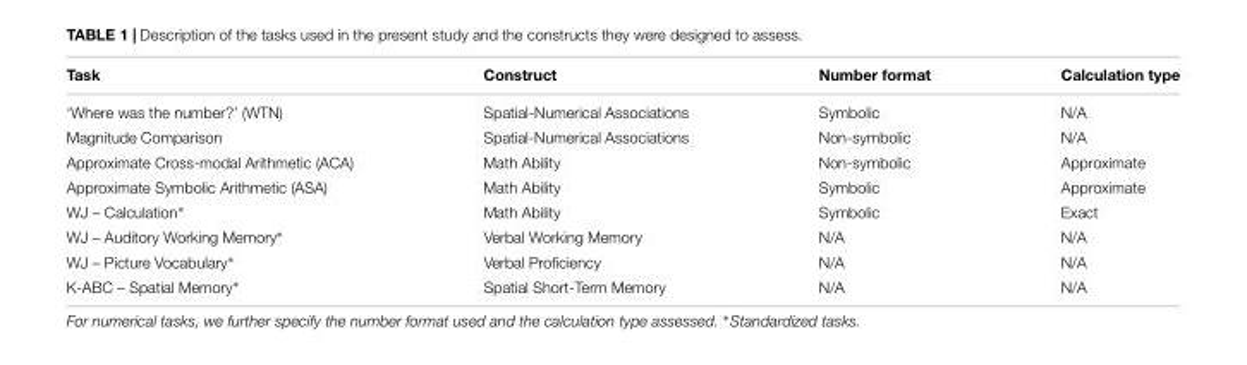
<table><thead><tr><td>Task</td><td>Construct</td><td>Number format</td><td>Calculation type</td></tr></thead><tbody><tr><td>‘Where was the number?’ (WTN)</td><td>Spatial-Numerical Associations</td><td>Symbolic</td><td>N/A</td></tr><tr><td>Magnitude Comparison</td><td>Spatial-Numerical Associations</td><td>Non-symbolic</td><td>N/A</td></tr><tr><td>Approximate Cross-modal Arithmetic (ACA)</td><td>Math Ability</td><td>Non-symbolic</td><td>Approximate</td></tr><tr><td>Approximate Symbolic Arithmetic (ASA)</td><td>Math Ability</td><td>Symbolic</td><td>Approximate</td></tr><tr><td>WJ – Calculation∗</td><td>Math Ability</td><td>Symbolic</td><td>Exact</td></tr><tr><td>WJ – Auditory Working Memory∗</td><td>Verbal Working Memory</td><td>N/A</td><td>N/A</td></tr><tr><td>WJ – Picture Vocabulary∗</td><td>Verbal Proficiency</td><td>N/A</td><td>N/A</td></tr><tr><td>K-ABC – Spatial Memory∗</td><td>Spatial Short-Term Memory</td><td>N/A</td><td>N/A</td></tr></tbody></table>